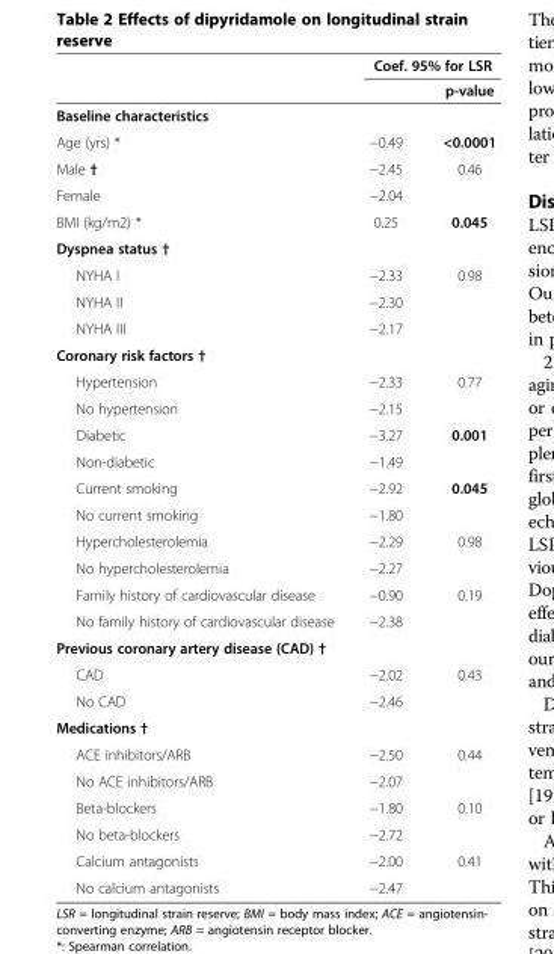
<table><thead><tr><td rowspan="2"></td><td colspan="2">Coef. 95% for LSR</td></tr><tr><td></td><td>p-value</td></tr></thead><tbody><tr><td colspan="3">Baseline characteristics</td></tr><tr><td>Age (yrs) *</td><td>−0.49</td><td>&lt;0.0001</td></tr><tr><td>Male †</td><td>−2.45</td><td rowspan="2">0.46</td></tr><tr><td>Female</td><td>−2.04</td></tr><tr><td>BMI (kg/m2) *</td><td>0.25</td><td>0.045</td></tr><tr><td colspan="3">Dyspnea status †</td></tr><tr><td>NYHA I</td><td>−2.33</td><td rowspan="3">0.98</td></tr><tr><td>NYHA II</td><td>−2.30</td></tr><tr><td>NYHA III</td><td>−2.17</td></tr><tr><td colspan="3">Coronary risk factors †</td></tr><tr><td>Hypertension</td><td>−2.33</td><td rowspan="2">0.77</td></tr><tr><td>No hypertension</td><td>−2.15</td></tr><tr><td>Diabetic</td><td>−3.27</td><td rowspan="2">0.001</td></tr><tr><td>Non-diabetic</td><td>−1.49</td></tr><tr><td>Current smoking</td><td>−2.92</td><td rowspan="2">0.045</td></tr><tr><td>No current smoking</td><td>−1.80</td></tr><tr><td>Hypercholesterolemia</td><td>−2.29</td><td rowspan="2">0.98</td></tr><tr><td>No hypercholesterolemia</td><td>−2.27</td></tr><tr><td>Family history of cardiovascular disease</td><td>−0.90</td><td rowspan="2">0.19</td></tr><tr><td>No family history of cardiovascular disease</td><td>−2.38</td></tr><tr><td colspan="3">Previous coronary artery disease (CAD) †</td></tr><tr><td>CAD</td><td>−2.02</td><td rowspan="2">0.43</td></tr><tr><td>No CAD</td><td>−2.46</td></tr><tr><td colspan="3">Medications †</td></tr><tr><td>ACE inhibitors/ARB</td><td>−2.50</td><td rowspan="2">0.44</td></tr><tr><td>No ACE inhibitors/ARB</td><td>−2.07</td></tr><tr><td>Beta-blockers</td><td>−1.80</td><td rowspan="2">0.10</td></tr><tr><td>No beta-blockers</td><td>−2.72</td></tr><tr><td>Calcium antagonists</td><td>−2.00</td><td>0.41</td></tr><tr><td>No calcium antagonists</td><td>−2.47</td><td></td></tr></tbody></table>